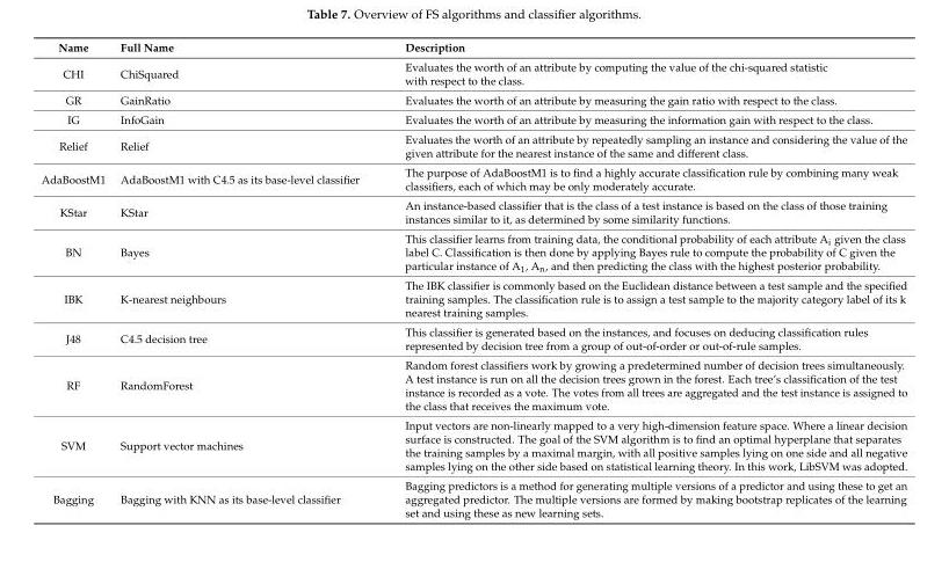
<table><thead><tr><td>Name</td><td>Full Name</td><td>Description</td></tr></thead><tbody><tr><td>CHI</td><td>ChiSquared</td><td>Evaluates the worth of an attribute by computing the value of the chi-squared statistic with respect to the class.</td></tr><tr><td>GR</td><td>GainRatio</td><td>Evaluates the worth of an attribute by measuring the gain ratio with respect to the class.</td></tr><tr><td>IG</td><td>InfoGain</td><td>Evaluates the worth of an attribute by measuring the information gain with respect to the class.</td></tr><tr><td>Relief</td><td>Relief</td><td>Evaluates the worth of an attribute by repeatedly sampling an instance and considering the value of the given attribute for the nearest instance of the same and different class.</td></tr><tr><td>AdaBoostM1</td><td>AdaBoostM1 with C4.5 as its base-level classifier</td><td>The purpose of AdaBoostM1 is to find a highly accurate classification rule by combining many weak classifiers, each of which may be only moderately accurate.</td></tr><tr><td>KStar</td><td>KStar</td><td>An instance-based classifier that is the class of a test instance is based on the class of those training instances similar to it, as determined by some similarity functions.</td></tr><tr><td>BN</td><td>Bayes</td><td>This classifier learns from training data, the conditional probability of each attribute A<sub>i</sub> given the class label C. Classification is then done by applying Bayes rule to compute the probability of C given the particular instance of A<sub>1</sub>, A<sub>n</sub>, and then predicting the class with the highest posterior probability.</td></tr><tr><td>IBK</td><td>K-nearest neighbours</td><td>The IBK classifier is commonly based on the Euclidean distance between a test sample and the specified training samples. The classification rule is to assign a test sample to the majority category label of its k nearest training samples.</td></tr><tr><td>J48</td><td>C4.5 decision tree</td><td>This classifier is generated based on the instances, and focuses on deducing classification rules represented by decision tree from a group of out-of-order or out-of-rule samples.</td></tr><tr><td>RF</td><td>RandomForest</td><td>Random forest classifiers work by growing a predetermined number of decision trees simultaneously. A test instance is run on all the decision trees grown in the forest. Each tree’s classification of the test instance is recorded as a vote. The votes from all trees are aggregated and the test instance is assigned to the class that receives the maximum vote.</td></tr><tr><td>SVM</td><td>Support vector machines</td><td>Input vectors are non-linearly mapped to a very high-dimension feature space. Where a linear decision surface is constructed. The goal of the SVM algorithm is to find an optimal hyperplane that separates the training samples by a maximal margin, with all positive samples lying on one side and all negative samples lying on the other side based on statistical learning theory. In this work, LibSVM was adopted.</td></tr><tr><td>Bagging</td><td>Bagging with KNN as its base-level classifier</td><td>Bagging predictors is a method for generating multiple versions of a predictor and using these to get an aggregated predictor. The multiple versions are formed by making bootstrap replicates of the learning set and using these as new learning sets.</td></tr></tbody></table>